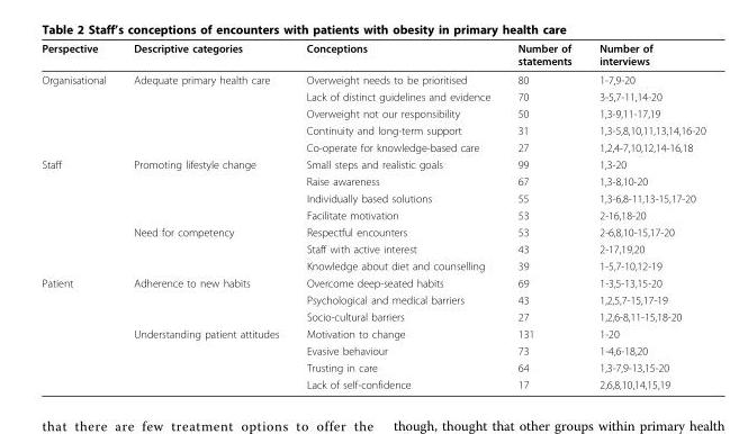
<table><thead><tr><td>Perspective</td><td>Descriptive categories</td><td>Conceptions</td><td>Number of statements</td><td>Number of interviews</td></tr></thead><tbody><tr><td rowspan="5">Organisational</td><td>Adequate primary health care</td><td>Overweight needs to be prioritised</td><td>80</td><td>1-7,9-20</td></tr><tr><td></td><td>Lack of distinct guidelines and evidence</td><td>70</td><td>3-5,7-11,14-20</td></tr><tr><td></td><td>Overweight not our responsibility</td><td>50</td><td>1,3-9,11-17,19</td></tr><tr><td></td><td>Continuity and long-term support</td><td>31</td><td>1,3-5,8,10,11,13,14,16-20</td></tr><tr><td></td><td>Co-operate for knowledge-based care</td><td>27</td><td>1,2,4-7,10,12,14-16,18</td></tr><tr><td rowspan="7">Staff</td><td>Promoting lifestyle change</td><td>Small steps and realistic goals</td><td>99</td><td>1,3-20</td></tr><tr><td></td><td>Raise awareness</td><td>67</td><td>1,3-8,10-20</td></tr><tr><td></td><td>Individually based solutions</td><td>55</td><td>1,3-6,8-11,13-15,17-20</td></tr><tr><td></td><td>Facilitate motivation</td><td>53</td><td>2-16,18-20</td></tr><tr><td>Need for competency</td><td>Respectful encounters</td><td>53</td><td>2-6,8,10-15,17-20</td></tr><tr><td></td><td>Staff with active interest</td><td>43</td><td>2-17,19,20</td></tr><tr><td></td><td>Knowledge about diet and counselling</td><td>39</td><td>1-5,7-10,12-19</td></tr><tr><td rowspan="7">Patient</td><td>Adherence to new habits</td><td>Overcome deep-seated habits</td><td>69</td><td>1-3,5-13,15-20</td></tr><tr><td></td><td>Psychological and medical barriers</td><td>43</td><td>1,2,5,7-15,17-19</td></tr><tr><td></td><td>Socio-cultural barriers</td><td>27</td><td>1,2,6-8,11-15,18-20</td></tr><tr><td>Understanding patient attitudes</td><td>Motivation to change</td><td>131</td><td>1-20</td></tr><tr><td></td><td>Evasive behaviour</td><td>73</td><td>1-4,6-18,20</td></tr><tr><td></td><td>Trusting in care</td><td>64</td><td>1,3-7,9-13,15-20</td></tr><tr><td></td><td>Lack of self-confidence</td><td>17</td><td>2,6,8,10,14,15,19</td></tr></tbody></table>